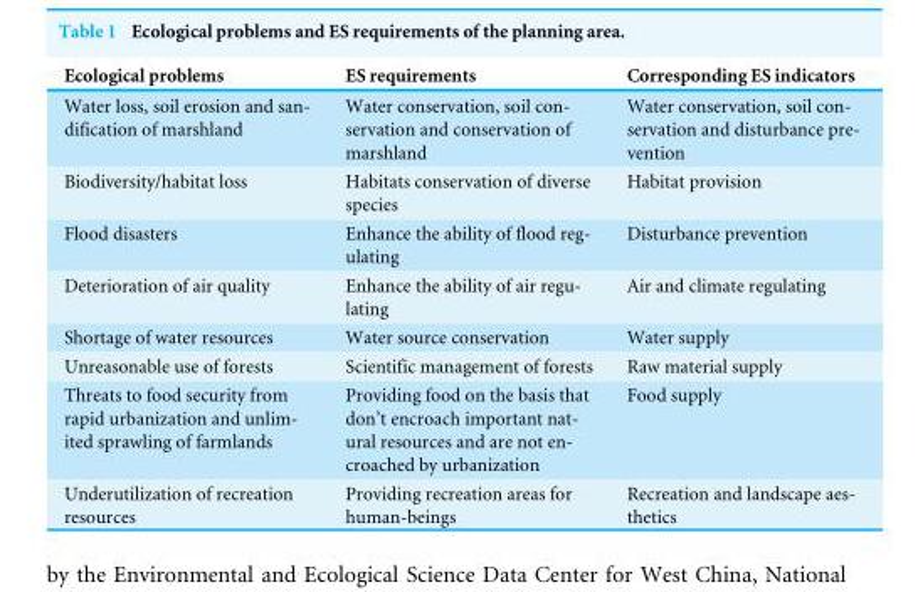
<table><thead><tr><td>Ecological problems</td><td>ES requirements</td><td>Corresponding ES indicators</td></tr></thead><tbody><tr><td>Water loss, soil erosion and san- dification of marshland</td><td>Water conservation, soil con- servation and conservation of marshland</td><td>Water conservation, soil con- servation and disturbance pre- vention</td></tr><tr><td>Biodiversity/habitat loss</td><td>Habitats conservation of diverse species</td><td>Habitat provision</td></tr><tr><td>Flood disasters</td><td>Enhance the ability of flood reg- ulating</td><td>Disturbance prevention</td></tr><tr><td>Deterioration of air quality</td><td>Enhance the ability of air regu- lating</td><td>Air and climate regulating</td></tr><tr><td>Shortage of water resources</td><td>Water source conservation</td><td>Water supply</td></tr><tr><td>Unreasonable use of forests</td><td>Scientific management of forests</td><td>Raw material supply</td></tr><tr><td>Threats to food security from rapid urbanization and unlim- ited sprawling of farmlands</td><td>Providing food on the basis that don’t encroach important nat- ural resources and are not en- croached by urbanization</td><td>Food supply</td></tr><tr><td>Underutilization of recreation resources</td><td>Providing recreation areas for human-beings</td><td>Recreation and landscape aes- thetics</td></tr></tbody></table>